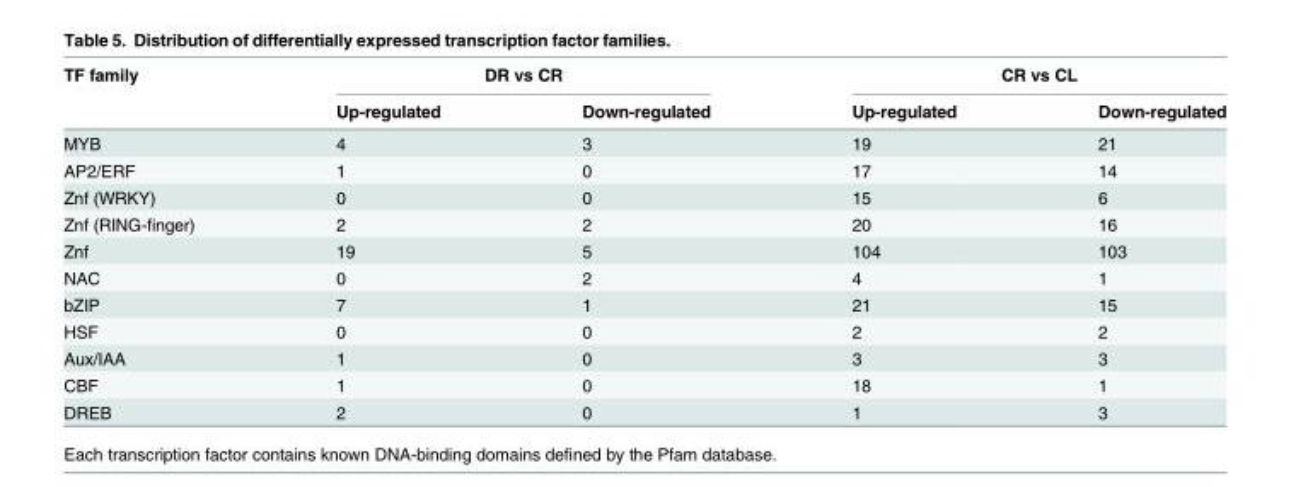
<table><thead><tr><td rowspan="2">TF family</td><td colspan="2">DR vs CR</td><td colspan="2">CR vs CL</td></tr><tr><td>Up-regulated</td><td>Down-regulated</td><td>Up-regulated</td><td>Down-regulated</td></tr></thead><tbody><tr><td>MYB</td><td>4</td><td>3</td><td>19</td><td>21</td></tr><tr><td>AP2/ERF</td><td>1</td><td>0</td><td>17</td><td>14</td></tr><tr><td>Znf (WRKY)</td><td>0</td><td>0</td><td>15</td><td>6</td></tr><tr><td>Znf (RING-finger)</td><td>2</td><td>2</td><td>20</td><td>16</td></tr><tr><td>Znf</td><td>19</td><td>5</td><td>104</td><td>103</td></tr><tr><td>NAC</td><td>0</td><td>2</td><td>4</td><td>1</td></tr><tr><td>bZIP</td><td>7</td><td>1</td><td>21</td><td>15</td></tr><tr><td>HSF</td><td>0</td><td>0</td><td>2</td><td>2</td></tr><tr><td>Aux/IAA</td><td>1</td><td>0</td><td>3</td><td>3</td></tr><tr><td>CBF</td><td>1</td><td>0</td><td>18</td><td>1</td></tr><tr><td>DREB</td><td>2</td><td>0</td><td>1</td><td>3</td></tr></tbody></table>